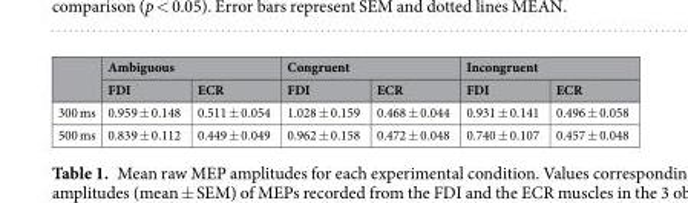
<table><thead><tr><td rowspan="2"></td><td colspan="2">Ambiguous</td><td colspan="2">Congruent</td><td colspan="2">Incongruent</td></tr><tr><td>FDI</td><td>ECR</td><td>FDI</td><td>ECR</td><td>FDI</td><td>ECR</td></tr></thead><tbody><tr><td>300 ms</td><td>0.959 ± 0.148</td><td>0.511 ± 0.054</td><td>1.028 ± 0.159</td><td>0.468 ± 0.044</td><td>0.931 ± 0.141</td><td>0.496 ± 0.058</td></tr><tr><td>500 ms</td><td>0.839 ± 0.112</td><td>0.449 ± 0.049</td><td>0.962 ± 0.158</td><td>0.472 ± 0.048</td><td>0.740 ± 0.107</td><td>0.457 ± 0.048</td></tr></tbody></table>